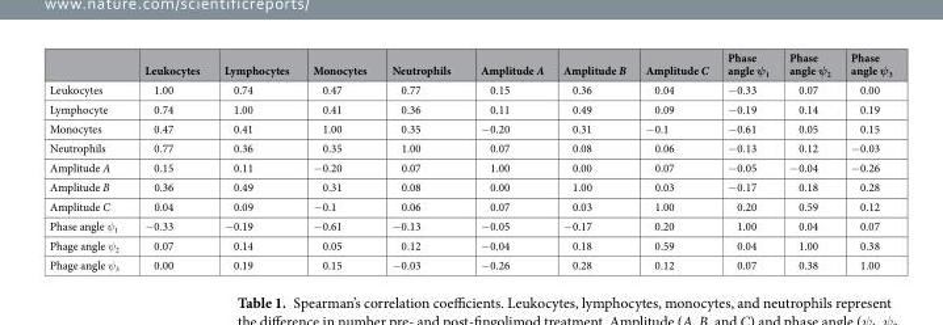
<table><thead><tr><td></td><td>Leukocytes</td><td>Lymphocytes</td><td>Monocytes</td><td>Neutrophils</td><td>Amplitude A</td><td>Amplitude B</td><td>Amplitude C</td><td>Phase angle ψ<sub>1</sub></td><td>Phase angle ψ<sub>2</sub></td><td>Phase angle ψ<sub>3</sub></td></tr></thead><tbody><tr><td>Leukocytes</td><td>1.00</td><td>0.74</td><td>0.47</td><td>0.77</td><td>0.15</td><td>0.36</td><td>0.04</td><td>−0.33</td><td>0.07</td><td>0.00</td></tr><tr><td>Lymphocyte</td><td>0.74</td><td>1.00</td><td>0.41</td><td>0.36</td><td>0.11</td><td>0.49</td><td>0.09</td><td>−0.19</td><td>0.14</td><td>0.19</td></tr><tr><td>Monocytes</td><td>0.47</td><td>0.41</td><td>1.00</td><td>0.35</td><td>−0.20</td><td>0.31</td><td>−0.1</td><td>−0.61</td><td>0.05</td><td>0.15</td></tr><tr><td>Neutrophils</td><td>0.77</td><td>0.36</td><td>0.35</td><td>1.00</td><td>0.07</td><td>0.08</td><td>0.06</td><td>−0.13</td><td>0.12</td><td>−0.03</td></tr><tr><td>Amplitude A</td><td>0.15</td><td>0.11</td><td>−0.20</td><td>0.07</td><td>1.00</td><td>0.00</td><td>0.07</td><td>−0.05</td><td>−0.04</td><td>−0.26</td></tr><tr><td>Amplitude B</td><td>0.36</td><td>0.49</td><td>0.31</td><td>0.08</td><td>0.00</td><td>1.00</td><td>0.03</td><td>−0.17</td><td>0.18</td><td>0.28</td></tr><tr><td>Amplitude C</td><td>0.04</td><td>0.09</td><td>−0.1</td><td>0.06</td><td>0.07</td><td>0.03</td><td>1.00</td><td>0.20</td><td>0.59</td><td>0.12</td></tr><tr><td>Phase angle ψ<sub>1</sub></td><td>−0.33</td><td>−0.19</td><td>−0.61</td><td>−0.13</td><td>−0.05</td><td>−0.17</td><td>0.20</td><td>1.00</td><td>0.04</td><td>0.07</td></tr><tr><td>Phage angle ψ<sub>2</sub></td><td>0.07</td><td>0.14</td><td>0.05</td><td>0.12</td><td>−0.04</td><td>0.18</td><td>0.59</td><td>0.04</td><td>1.00</td><td>0.38</td></tr><tr><td>Phage angle ψ<sub>3</sub></td><td>0.00</td><td>0.19</td><td>0.15</td><td>−0.03</td><td>−0.26</td><td>0.28</td><td>0.12</td><td>0.07</td><td>0.38</td><td>1.00</td></tr></tbody></table>